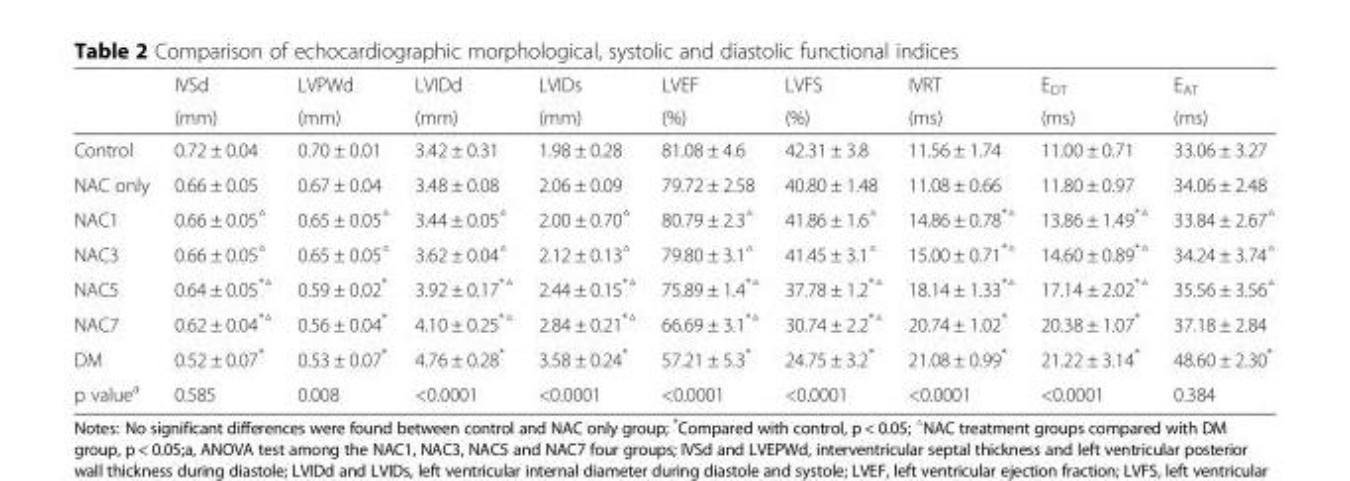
<table><thead><tr><td rowspan="2"></td><td rowspan="2">IVSd (mm)</td><td rowspan="2">LVPWd (mm)</td><td rowspan="2">LVIDd (mm)</td><td rowspan="2">LVIDs (mm)</td><td rowspan="2">LVEF (%)</td><td rowspan="2">LVFS (%)</td><td rowspan="2">IVRT (ms)</td><td rowspan="2">E<sub>DT</sub> (ms)</td><td rowspan="2">E<sub>AT</sub> (ms)</td></tr><tr></tr></thead><tbody><tr><td>Control</td><td>0.72 ± 0.04</td><td>0.70 ± 0.01</td><td>3.42 ± 0.31</td><td>1.98 ± 0.28</td><td>81.08 ± 4.6</td><td>42.31 ± 3.8</td><td>11.56 ± 1.74</td><td>11.00 ± 0.71</td><td>33.06 ± 3.27</td></tr><tr><td>NAC only</td><td>0.66 ± 0.05</td><td>0.67 ± 0.04</td><td>3.48 ± 0.08</td><td>2.06 ± 0.09</td><td>79.72 ± 2.58</td><td>40.80 ± 1.48</td><td>11.08 ± 0.66</td><td>11.80 ± 0.97</td><td>34.06 ± 2.48</td></tr><tr><td>NAC1</td><td>0.66 ± 0.05<sup>△</sup></td><td>0.65 ± 0.05<sup>△</sup></td><td>3.44 ± 0.05<sup>△</sup></td><td>2.00 ± 0.70<sup>△</sup></td><td>80.79 ± 2.3<sup>△</sup></td><td>41.86 ± 1.6<sup>△</sup></td><td>14.86 ± 0.78<sup>*△</sup></td><td>13.86 ± 1.49<sup>*△</sup></td><td>33.84 ± 2.67<sup>△</sup></td></tr><tr><td>NAC3</td><td>0.66 ± 0.05<sup>△</sup></td><td>0.65 ± 0.05<sup>△</sup></td><td>3.62 ± 0.04<sup>△</sup></td><td>2.12 ± 0.13<sup>△</sup></td><td>79.80 ± 3.1<sup>△</sup></td><td>41.45 ± 3.1<sup>△</sup></td><td>15.00 ± 0.71<sup>*△</sup></td><td>14.60 ± 0.89<sup>*△</sup></td><td>34.24 ± 3.74<sup>△</sup></td></tr><tr><td>NAC5</td><td>0.64 ± 0.05<sup>*△</sup></td><td>0.59 ± 0.02*</td><td>3.92 ± 0.17<sup>*△</sup></td><td>2.44 ± 0.15<sup>*△</sup></td><td>75.89 ± 1.4<sup>*△</sup></td><td>37.78 ± 1.2<sup>*△</sup></td><td>18.14 ± 1.33<sup>*△</sup></td><td>17.14 ± 2.02<sup>*△</sup></td><td>35.56 ± 3.56<sup>△</sup></td></tr><tr><td>NAC7</td><td>0.62 ± 0.04<sup>*△</sup></td><td>0.56 ± 0.04*</td><td>4.10 ± 0.25<sup>*△</sup></td><td>2.84 ± 0.21<sup>*△</sup></td><td>66.69 ± 3.1<sup>*△</sup></td><td>30.74 ± 2.2<sup>*△</sup></td><td>20.74 ± 1.02*</td><td>20.38 ± 1.07*</td><td>37.18 ± 2.84</td></tr><tr><td>DM</td><td>0.52 ± 0.07*</td><td>0.53 ± 0.07*</td><td>4.76 ± 0.28*</td><td>3.58 ± 0.24*</td><td>57.21 ± 5.3*</td><td>24.75 ± 3.2*</td><td>21.08 ± 0.99*</td><td>21.22 ± 3.14*</td><td>48.60 ± 2.30*</td></tr><tr><td>p value<sup>a</sup></td><td>0.585</td><td>0.008</td><td>&lt;0.0001</td><td>&lt;0.0001</td><td>&lt;0.0001</td><td>&lt;0.0001</td><td>&lt;0.0001</td><td>&lt;0.0001</td><td>0.384</td></tr></tbody></table>